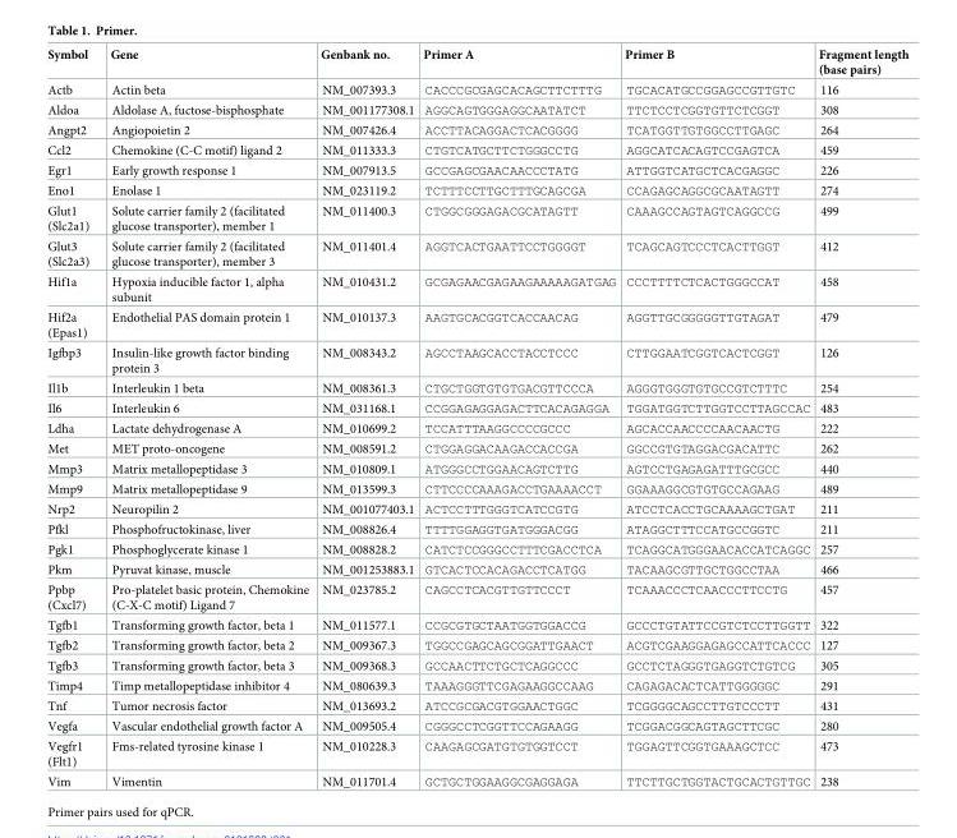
<table><thead><tr><td>Symbol</td><td>Gene</td><td>Genbank no.</td><td>Primer A</td><td>Primer B</td><td>Fragment length (base pairs)</td></tr></thead><tbody><tr><td>Actb</td><td>Actin beta</td><td>NM_007393.3</td><td>CACCCGCGAGCACAGCTTCTTTG</td><td>TGCACATGCCGGAGCCGTTGTC</td><td>116</td></tr><tr><td>Aldoa</td><td>Aldolase A, fuctose-bisphosphate</td><td>NM_001177308.1</td><td>AGGCAGTGGGAGGCAATATCT</td><td>TTCTCCTCGGTGTTCTCGGT</td><td>308</td></tr><tr><td>Angpt2</td><td>Angiopoietin 2</td><td>NM_007426.4</td><td>ACCTTACAGGACTCACGGGG</td><td>TCATGGTTGTGGCCTTGAGC</td><td>264</td></tr><tr><td>Ccl2</td><td>Chemokine (C-C motif) ligand 2</td><td>NM_011333.3</td><td>CTGTCATGCTTCTGGGCCTG</td><td>AGGCATCACAGTCCGAGTCA</td><td>459</td></tr><tr><td>Egr1</td><td>Early growth response 1</td><td>NM_007913.5</td><td>GCCGAGCGAACAACCCTATG</td><td>ATTGGTCATGCTCACGAGGC</td><td>226</td></tr><tr><td>Eno1</td><td>Enolase 1</td><td>NM_023119.2</td><td>TCTTTCCTTGCTTTGCAGCGA</td><td>CCAGAGCAGGCGCAATAGTT</td><td>274</td></tr><tr><td>Glut1 (Slc2a1)</td><td>Solute carrier family 2 (facilitated glucose transporter), member 1</td><td>NM_011400.3</td><td>CTGGCGGGAGACGCATAGTT</td><td>CAAAGCCAGTAGTCAGGCCG</td><td>499</td></tr><tr><td>Glut3 (Slc2a3)</td><td>Solute carrier family 2 (facilitated glucose transporter), member 3</td><td>NM_011401.4</td><td>AGGTCACTGAATTCCTGGGGT</td><td>TCAGCAGTCCCTCACTTGGT</td><td>412</td></tr><tr><td>Hif1a</td><td>Hypoxia inducible factor 1, alpha subunit</td><td>NM_010431.2</td><td>GCGAGAACGAGAAGAAAAAGATGAG</td><td>CCCTTTTCTCACTGGGCCAT</td><td>458</td></tr><tr><td>Hif2a (Epas1)</td><td>Endothelial PAS domain protein 1</td><td>NM_010137.3</td><td>AAGTGCACGGTCACCAACAG</td><td>AGGTTGCGGGGGTTGTAGAT</td><td>479</td></tr><tr><td>Igfbp3</td><td>Insulin-like growth factor binding protein 3</td><td>NM_008343.2</td><td>AGCCTAAGCACCTACCTCCC</td><td>CTTGGAATCGGTCACTCGGT</td><td>126</td></tr><tr><td>Il1b</td><td>Interleukin 1 beta</td><td>NM_008361.3</td><td>CTGCTGGTGTGTGACGTTCCCA</td><td>AGGGTGGGTGTGCCGTCTTTC</td><td>254</td></tr><tr><td>Il6</td><td>Interleukin 6</td><td>NM_031168.1</td><td>CCGGAGAGGAGACTTCACAGAGGA</td><td>TGGATGGTCTTGGTCCTTAGCCAC</td><td>483</td></tr><tr><td>Ldha</td><td>Lactate dehydrogenase A</td><td>NM_010699.2</td><td>TCCATTTAAGGCCCCGCCC</td><td>AGCACCAACCCCAACAACTG</td><td>222</td></tr><tr><td>Met</td><td>MET proto-oncogene</td><td>NM_008591.2</td><td>CTGGAGGACAAGACCACCGA</td><td>GGCCGTGTAGGACGACATTC</td><td>262</td></tr><tr><td>Mmp3</td><td>Matrix metallopeptidase 3</td><td>NM_010809.1</td><td>ATGGGCCTGGAACAGTCTTG</td><td>AGTCCTGAGAGATTTGCGCC</td><td>440</td></tr><tr><td>Mmp9</td><td>Matrix metallopeptidase 9</td><td>NM_013599.3</td><td>CTTCCCCAAAGACCTGAAAACCT</td><td>GGAAAGGCGTGTGCCAGAAG</td><td>489</td></tr><tr><td>Nrp2</td><td>Neuropilin 2</td><td>NM_001077403.1</td><td>ACTCCTTTGGGTCATCCGTG</td><td>ATCCTCACCTGCAAAAGCTGAT</td><td>211</td></tr><tr><td>Pfkl</td><td>Phosphofructokinase, liver</td><td>NM_008826.4</td><td>TTTTGGAGGTGATGGGACGG</td><td>ATAGGCTTTCCATGCCGGTC</td><td>211</td></tr><tr><td>Pgk1</td><td>Phosphoglycerate kinase 1</td><td>NM_008828.2</td><td>CATCTCCGGGCCTTTCGACCTCA</td><td>TCAGGCATGGGAACACCATCAGGC</td><td>257</td></tr><tr><td>Pkm</td><td>Pyruvat kinase, muscle</td><td>NM_001253883.1</td><td>GTCACTCCACAGACCTCATGG</td><td>TACAAGCGTTGCTGGCCTAA</td><td>466</td></tr><tr><td>Ppbp (Cxcl7)</td><td>Pro-platelet basic protein, Chemokine (C-X-C motif) Ligand 7</td><td>NM_023785.2</td><td>CAGCCTCACGTTGTTCCCT</td><td>TCAAACCCTCAACCCTTCCTG</td><td>457</td></tr><tr><td>Tgfb1</td><td>Transforming growth factor, beta 1</td><td>NM_011577.1</td><td>CCGCGTGCTAATGGTGGACCG</td><td>GCCCTGTATTCCGTCTCCTTGGTT</td><td>322</td></tr><tr><td>Tgfb2</td><td>Transforming growth factor, beta 2</td><td>NM_009367.3</td><td>TGGCCGAGCAGCGGATTGAACT</td><td>ACGTCGAAGGAGAGCCATTCACCC</td><td>127</td></tr><tr><td>Tgfb3</td><td>Transforming growth factor, beta 3</td><td>NM_009368.3</td><td>GCCAACTTCTGCTCAGGCCC</td><td>GCCTCTAGGGTGAGGTCTGTCG</td><td>305</td></tr><tr><td>Timp4</td><td>Timp metallopeptidase inhibitor 4</td><td>NM_080639.3</td><td>TAAAGGGTTCGAGAAGGCCAAG</td><td>CAGAGACACTCATTGGGGGC</td><td>291</td></tr><tr><td>Tnf</td><td>Tumor necrosis factor</td><td>NM_013693.2</td><td>ATCCGCGACGTGGAACTGGC</td><td>TCGGGGCAGCCTTGTCCCTT</td><td>431</td></tr><tr><td>Vegfa</td><td>Vascular endothelial growth factor A</td><td>NM_009505.4</td><td>CGGGCCTCGGTTCCAGAAGG</td><td>TCGGACGGCAGTAGCTTCGC</td><td>280</td></tr><tr><td>Vegfr1 (Flt1)</td><td>Fms-related tyrosine kinase 1</td><td>NM_010228.3</td><td>CAAGAGCGATGTGTGGTCCT</td><td>TGGAGTTCGGTGAAAGCTCC</td><td>473</td></tr><tr><td>Vim</td><td>Vimentin</td><td>NM_011701.4</td><td>GCTGCTGGAAGGCGAGGAGA</td><td>TTCTTGCTGGTACTGCACTGTTGC</td><td>238</td></tr></tbody></table>